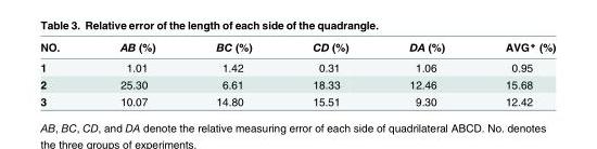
<table><thead><tr><td>NO.</td><td>AB (%)</td><td>BC (%)</td><td>CD (%)</td><td>DA (%)</td><td>AVG* (%)</td></tr></thead><tbody><tr><td>1</td><td>1.01</td><td>1.42</td><td>0.31</td><td>1.06</td><td>0.95</td></tr><tr><td>2</td><td>25.30</td><td>6.61</td><td>18.33</td><td>12.46</td><td>15.68</td></tr><tr><td>3</td><td>10.07</td><td>14.80</td><td>15.51</td><td>9.30</td><td>12.42</td></tr></tbody></table>